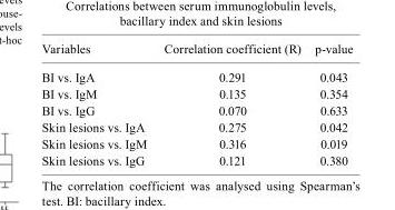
<table><thead><tr><td>Variables</td><td>Correlation coefficient (R)</td><td>p-value</td></tr></thead><tbody><tr><td>BI vs. IgA</td><td>0.291</td><td>0.043</td></tr><tr><td>BI vs. IgM</td><td>0.135</td><td>0.354</td></tr><tr><td>BI vs. IgG</td><td>0.070</td><td>0.633</td></tr><tr><td>Skin lesions vs. IgA</td><td>0.275</td><td>0.042</td></tr><tr><td>Skin lesions vs. IgM</td><td>0.316</td><td>0.019</td></tr><tr><td>Skin lesions vs. IgG</td><td>0.121</td><td>0.380</td></tr></tbody></table>